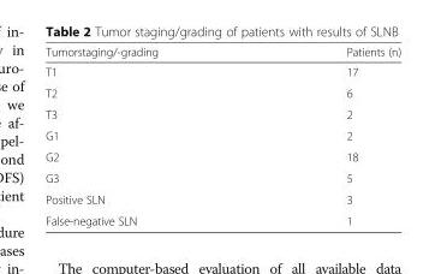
<table><thead><tr><td>Tumorstaging/-grading</td><td>Patients (n)</td></tr></thead><tbody><tr><td>T1</td><td>17</td></tr><tr><td>T2</td><td>6</td></tr><tr><td>T3</td><td>2</td></tr><tr><td>G1</td><td>2</td></tr><tr><td>G2</td><td>18</td></tr><tr><td>G3</td><td>5</td></tr><tr><td>Positive SLN</td><td>3</td></tr><tr><td>False-negative SLN</td><td>1</td></tr></tbody></table>